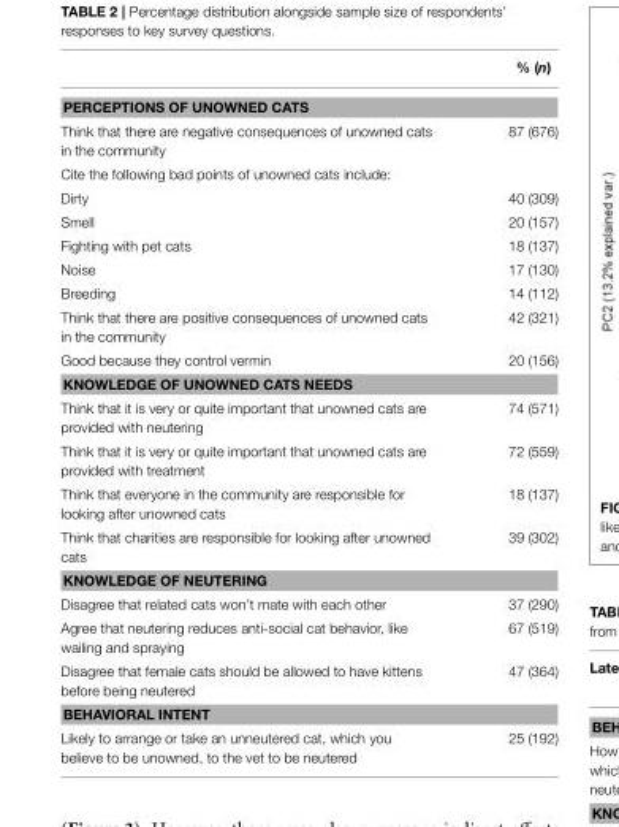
<table><thead><tr><td></td><td>% (n)</td></tr></thead><tbody><tr><td colspan="2">PERCEPTIONS OF UNOWNED CATS</td></tr><tr><td>Think that there are negative consequences of unowned cats in the community</td><td>87 (676)</td></tr><tr><td colspan="2">Cite the following bad points of unowned cats include:</td></tr><tr><td>Dirty</td><td>40 (309)</td></tr><tr><td>Smell</td><td>20 (157)</td></tr><tr><td>Fighting with pet cats</td><td>18 (137)</td></tr><tr><td>Noise</td><td>17 (130)</td></tr><tr><td>Breeding</td><td>14 (112)</td></tr><tr><td>Think that there are positive consequences of unowned cats in the community</td><td>42 (321)</td></tr><tr><td>Good because they control vermin</td><td>20 (156)</td></tr><tr><td colspan="2">KNOWLEDGE OF UNOWNED CATS NEEDS</td></tr><tr><td>Think that it is very or quite important that unowned cats are provided with neutering</td><td>74 (571)</td></tr><tr><td>Think that it is very or quite important that unowned cats are provided with treatment</td><td>72 (559)</td></tr><tr><td>Think that everyone in the community are responsible for looking after unowned cats</td><td>18 (137)</td></tr><tr><td>Think that charities are responsible for looking after unowned cats</td><td>39 (302)</td></tr><tr><td colspan="2">KNOWLEDGE OF NEUTERING</td></tr><tr><td>Disagree that related cats won’t mate with each other</td><td>37 (290)</td></tr><tr><td>Agree that neutering reduces anti-social cat behavior, like wailing and spraying</td><td>67 (519)</td></tr><tr><td>Disagree that female cats should be allowed to have kittens before being neutered</td><td>47 (364)</td></tr><tr><td colspan="2">BEHAVIORAL INTENT</td></tr><tr><td>Likely to arrange or take an unneutered cat, which you believe to be unowned, to the vet to be neutered</td><td>25 (192)</td></tr></tbody></table>